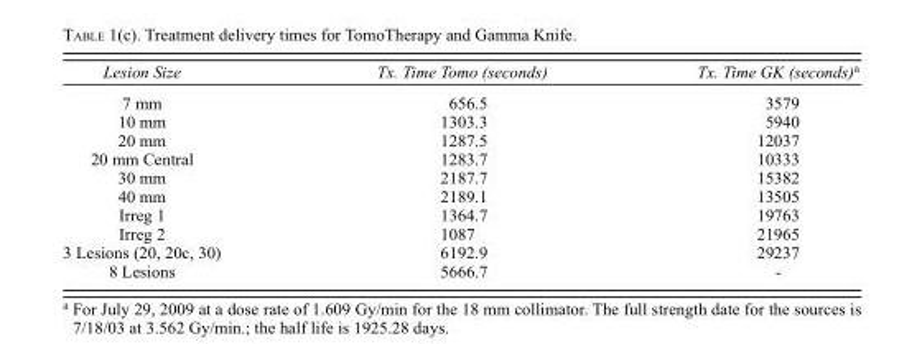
<table><thead><tr><td>Lesion Size</td><td>Tx. Time Tomo (seconds)</td><td>Tx. Time GK (seconds)<sup>a</sup></td></tr></thead><tbody><tr><td>7 mm</td><td>656.5</td><td>3579</td></tr><tr><td>10 mm</td><td>1303.3</td><td>5940</td></tr><tr><td>20 mm</td><td>1287.5</td><td>12037</td></tr><tr><td>20 mm Central</td><td>1283.7</td><td>10333</td></tr><tr><td>30 mm</td><td>2187.7</td><td>15382</td></tr><tr><td>40 mm</td><td>2189.1</td><td>13505</td></tr><tr><td>Irreg 1</td><td>1364.7</td><td>19763</td></tr><tr><td>Irreg 2</td><td>1087</td><td>21965</td></tr><tr><td>3 Lesions (20, 20c, 30)</td><td>6192.9</td><td>29237</td></tr><tr><td>8 Lesions</td><td>5666.7</td><td>-</td></tr></tbody></table>